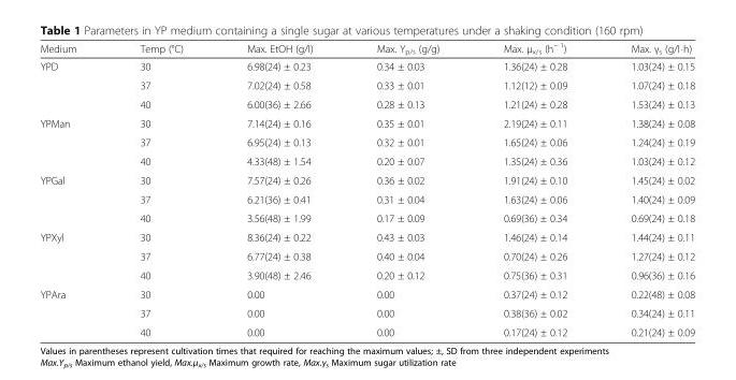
<table><thead><tr><td>Medium</td><td>Temp (°C)</td><td>Max. EtOH (g/l)</td><td>Max. Y<sub>p/s</sub> (g/g)</td><td>Max. μ<sub>x/s</sub> (h<sup>− 1</sup>)</td><td>Max. γ<sub>s</sub> (g/l⋅h)</td></tr></thead><tbody><tr><td rowspan="3">YPD</td><td>30</td><td>6.98(24) ± 0.23</td><td>0.34 ± 0.03</td><td>1.36(24) ± 0.28</td><td>1.03(24) ± 0.15</td></tr><tr><td>37</td><td>7.02(24) ± 0.58</td><td>0.33 ± 0.01</td><td>1.12(12) ± 0.09</td><td>1.07(24) ± 0.18</td></tr><tr><td>40</td><td>6.00(36) ± 2.66</td><td>0.28 ± 0.13</td><td>1.21(24) ± 0.28</td><td>1.53(24) ± 0.13</td></tr><tr><td rowspan="3">YPMan</td><td>30</td><td>7.14(24) ± 0.16</td><td>0.35 ± 0.01</td><td>2.19(24) ± 0.11</td><td>1.38(24) ± 0.08</td></tr><tr><td>37</td><td>6.95(24) ± 0.13</td><td>0.32 ± 0.01</td><td>1.65(24) ± 0.06</td><td>1.24(24) ± 0.19</td></tr><tr><td>40</td><td>4.33(48) ± 1.54</td><td>0.20 ± 0.07</td><td>1.35(24) ± 0.36</td><td>1.03(24) ± 0.12</td></tr><tr><td rowspan="3">YPGal</td><td>30</td><td>7.57(24) ± 0.26</td><td>0.36 ± 0.02</td><td>1.91(24) ± 0.10</td><td>1.45(24) ± 0.02</td></tr><tr><td>37</td><td>6.21(36) ± 0.41</td><td>0.31 ± 0.04</td><td>1.63(24) ± 0.06</td><td>1.40(24) ± 0.09</td></tr><tr><td>40</td><td>3.56(48) ± 1.99</td><td>0.17 ± 0.09</td><td>0.69(36) ± 0.34</td><td>0.69(24) ± 0.18</td></tr><tr><td rowspan="3">YPXyl</td><td>30</td><td>8.36(24) ± 0.22</td><td>0.43 ± 0.03</td><td>1.46(24) ± 0.14</td><td>1.44(24) ± 0.11</td></tr><tr><td>37</td><td>6.77(24) ± 0.38</td><td>0.40 ± 0.04</td><td>0.70(24) ± 0.26</td><td>1.27(24) ± 0.12</td></tr><tr><td>40</td><td>3.90(48) ± 2.46</td><td>0.20 ± 0.12</td><td>0.75(36) ± 0.31</td><td>0.96(36) ± 0.16</td></tr><tr><td rowspan="3">YPAra</td><td>30</td><td>0.00</td><td>0.00</td><td>0.37(24) ± 0.12</td><td>0.22(48) ± 0.08</td></tr><tr><td>37</td><td>0.00</td><td>0.00</td><td>0.38(36) ± 0.02</td><td>0.34(24) ± 0.11</td></tr><tr><td>40</td><td>0.00</td><td>0.00</td><td>0.17(24) ± 0.12</td><td>0.21(24) ± 0.09</td></tr></tbody></table>